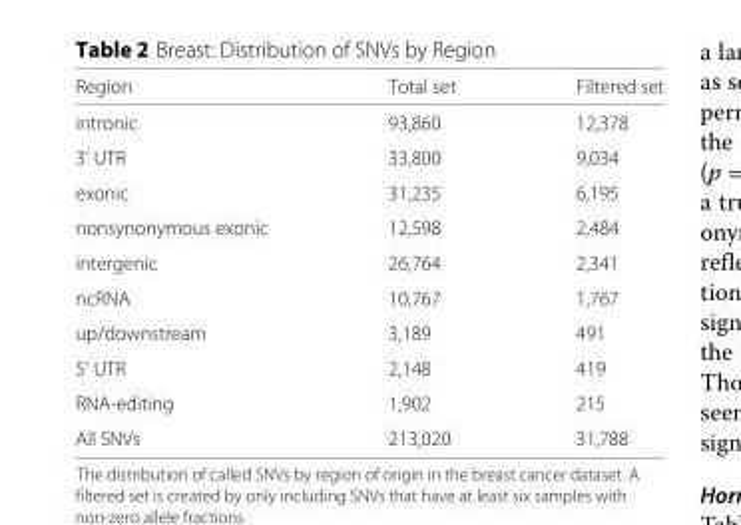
<table><thead><tr><td>Region</td><td>Total set</td><td>Filtered set</td></tr></thead><tbody><tr><td>intronic</td><td>93,860</td><td>12,378</td></tr><tr><td>3’ UTR</td><td>33,800</td><td>9,034</td></tr><tr><td>exonic</td><td>31,235</td><td>6,195</td></tr><tr><td>nonsynonymous exonic</td><td>12,598</td><td>2,484</td></tr><tr><td>intergenic</td><td>26,764</td><td>2,341</td></tr><tr><td>ncRNA</td><td>10,767</td><td>1,767</td></tr><tr><td>up/downstream</td><td>3,189</td><td>491</td></tr><tr><td>5’ UTR</td><td>2,148</td><td>419</td></tr><tr><td>RNA-editing</td><td>1,902</td><td>215</td></tr><tr><td>All SNVs</td><td>213,020</td><td>31,788</td></tr></tbody></table>